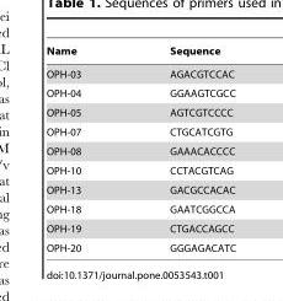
<table><thead><tr><td>Name</td><td>Sequence</td></tr></thead><tbody><tr><td>OPH-03</td><td>AGACGTCCAC</td></tr><tr><td>OPH-04</td><td>GGAAGTCGCC</td></tr><tr><td>OPH-05</td><td>AGTCGTCCCC</td></tr><tr><td>OPH-07</td><td>CTGCATCGTG</td></tr><tr><td>OPH-08</td><td>GAAACACCCC</td></tr><tr><td>OPH-10</td><td>CCTACGTCAG</td></tr><tr><td>OPH-13</td><td>GACGCCACAC</td></tr><tr><td>OPH-18</td><td>GAATCGGCCA</td></tr><tr><td>OPH-19</td><td>CTGACCAGCC</td></tr><tr><td>OPH-20</td><td>GGGAGACATC</td></tr></tbody></table>